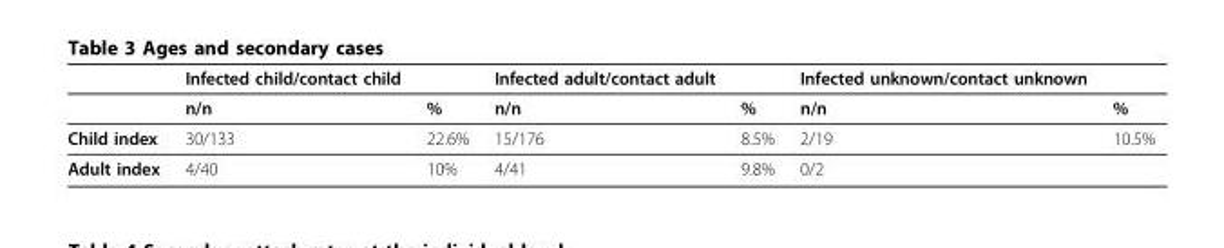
<table><thead><tr><td></td><td>Infected child/contact child</td><td></td><td>Infected adult/contact adult</td><td></td><td>Infected unknown/contact unknown</td><td></td></tr></thead><tbody><tr><td></td><td>n/n</td><td>%</td><td>n/n</td><td>%</td><td>n/n</td><td>%</td></tr><tr><td>Child index</td><td>30/133</td><td>22.6%</td><td>15/176</td><td>8.5%</td><td>2/19</td><td>10.5%</td></tr><tr><td>Adult index</td><td>4/40</td><td>10%</td><td>4/41</td><td>9.8%</td><td>0/2</td><td></td></tr></tbody></table>